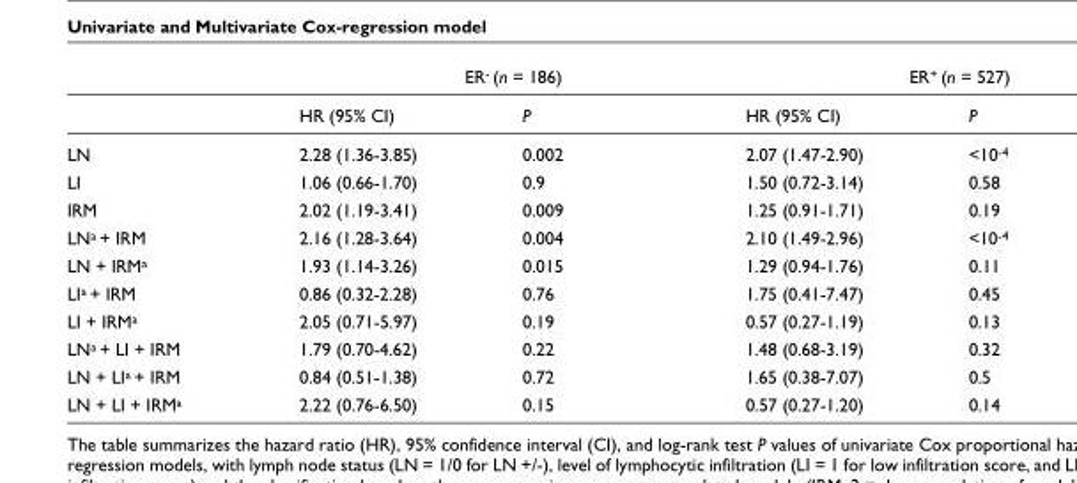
<table><thead><tr><td rowspan="2"></td><td colspan="2">ER<sup>-</sup> (n = 186)</td><td colspan="2">ER<sup>+</sup> (n = 527)</td></tr><tr><td>HR (95% CI)</td><td>P</td><td>HR (95% CI)</td><td>P</td></tr></thead><tbody><tr><td>LN</td><td>2.28 (1.36-3.85)</td><td>0.002</td><td>2.07 (1.47-2.90)</td><td>&lt;10<sup>-4</sup></td></tr><tr><td>LI</td><td>1.06 (0.66-1.70)</td><td>0.9</td><td>1.50 (0.72-3.14)</td><td>0.58</td></tr><tr><td>IRM</td><td>2.02 (1.19-3.41)</td><td>0.009</td><td>1.25 (0.91-1.71)</td><td>0.19</td></tr><tr><td>LN<sup>a</sup> + IRM</td><td>2.16 (1.28-3.64)</td><td>0.004</td><td>2.10 (1.49-2.96)</td><td>&lt;10<sup>-4</sup></td></tr><tr><td>LN + IRM<sup>a</sup></td><td>1.93 (1.14-3.26)</td><td>0.015</td><td>1.29 (0.94-1.76)</td><td>0.11</td></tr><tr><td>LI<sup>a</sup> + IRM</td><td>0.86 (0.32-2.28)</td><td>0.76</td><td>1.75 (0.41-7.47)</td><td>0.45</td></tr><tr><td>LI + IRM<sup>a</sup></td><td>2.05 (0.71-5.97)</td><td>0.19</td><td>0.57 (0.27-1.19)</td><td>0.13</td></tr><tr><td>LN<sup>a</sup> + LI + IRM</td><td>1.79 (0.70-4.62)</td><td>0.22</td><td>1.48 (0.68-3.19)</td><td>0.32</td></tr><tr><td>LN + LI<sup>a</sup> + IRM</td><td>0.84 (0.51-1.38)</td><td>0.72</td><td>1.65 (0.38-7.07)</td><td>0.5</td></tr><tr><td>LN + LI + IRM<sup>a</sup></td><td>2.22 (0.76-6.50)</td><td>0.15</td><td>0.57 (0.27-1.20)</td><td>0.14</td></tr></tbody></table>